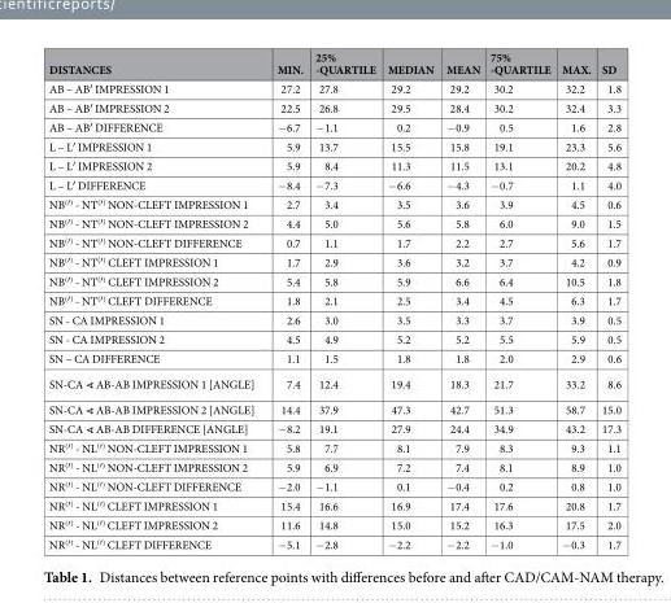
<table><thead><tr><td>DISTANCES</td><td>MIN.</td><td>25% -QUARTILE</td><td>MEDIAN</td><td>MEAN</td><td>75% -QUARTILE</td><td>MAX.</td><td>SD</td></tr></thead><tbody><tr><td>AB – AB′ IMPRESSION 1</td><td>27.2</td><td>27.8</td><td>29.2</td><td>29.2</td><td>30.2</td><td>32.2</td><td>1.8</td></tr><tr><td>AB – AB′ IMPRESSION 2</td><td>22.5</td><td>26.8</td><td>29.5</td><td>28.4</td><td>30.2</td><td>32.4</td><td>3.3</td></tr><tr><td>AB – AB′ DIFFERENCE</td><td>−6.7</td><td>−1.1</td><td>0.2</td><td>−0.9</td><td>0.5</td><td>1.6</td><td>2.8</td></tr><tr><td>L – L′ IMPRESSION 1</td><td>5.9</td><td>13.7</td><td>15.5</td><td>15.8</td><td>19.1</td><td>23.3</td><td>5.6</td></tr><tr><td>L – L′ IMPRESSION 2</td><td>5.9</td><td>8.4</td><td>11.3</td><td>11.5</td><td>13.1</td><td>20.2</td><td>4.8</td></tr><tr><td>L – L′ DIFFERENCE</td><td>−8.4</td><td>−7.3</td><td>−6.6</td><td>−4.3</td><td>−0.7</td><td>1.1</td><td>4.0</td></tr><tr><td>NB<sup>(</sup>′<sup>)</sup> - NT<sup>(</sup>′<sup>)</sup> NON-CLEFT IMPRESSION 1</td><td>2.7</td><td>3.4</td><td>3.5</td><td>3.6</td><td>3.9</td><td>4.5</td><td>0.6</td></tr><tr><td>NB<sup>(</sup>′<sup>)</sup> - NT<sup>(</sup>′<sup>)</sup> NON-CLEFT IMPRESSION 2</td><td>4.4</td><td>5.0</td><td>5.6</td><td>5.8</td><td>6.0</td><td>9.0</td><td>1.5</td></tr><tr><td>NB<sup>(</sup>′<sup>)</sup> - NT<sup>(</sup>′<sup>)</sup> NON-CLEFT DIFFERENCE</td><td>0.7</td><td>1.1</td><td>1.7</td><td>2.2</td><td>2.7</td><td>5.6</td><td>1.7</td></tr><tr><td>NB<sup>(</sup>′<sup>)</sup> - NT<sup>(</sup>′<sup>)</sup> CLEFT IMPRESSION 1</td><td>1.7</td><td>2.9</td><td>3.6</td><td>3.2</td><td>3.7</td><td>4.2</td><td>0.9</td></tr><tr><td>NB<sup>(</sup>′<sup>)</sup> - NT<sup>(</sup>′<sup>)</sup> CLEFT IMPRESSION 2</td><td>5.4</td><td>5.8</td><td>5.9</td><td>6.6</td><td>6.4</td><td>10.5</td><td>1.8</td></tr><tr><td>NB<sup>(</sup>′<sup>)</sup> - NT<sup>(</sup>′<sup>)</sup> CLEFT DIFFERENCE</td><td>1.8</td><td>2.1</td><td>2.5</td><td>3.4</td><td>4.5</td><td>6.3</td><td>1.7</td></tr><tr><td>SN - CA IMPRESSION 1</td><td>2.6</td><td>3.0</td><td>3.5</td><td>3.3</td><td>3.7</td><td>3.9</td><td>0.5</td></tr><tr><td>SN - CA IMPRESSION 2</td><td>4.5</td><td>4.9</td><td>5.2</td><td>5.2</td><td>5.5</td><td>5.9</td><td>0.5</td></tr><tr><td>SN – CA DIFFERENCE</td><td>1.1</td><td>1.5</td><td>1.8</td><td>1.8</td><td>2.0</td><td>2.9</td><td>0.6</td></tr><tr><td>SN-CA ∢ AB-AB IMPRESSION 1 [ANGLE]</td><td>7.4</td><td>12.4</td><td>19.4</td><td>18.3</td><td>21.7</td><td>33.2</td><td>8.6</td></tr><tr><td>SN-CA ∢ AB-AB IMPRESSION 2 [ANGLE]</td><td>14.4</td><td>37.9</td><td>47.3</td><td>42.7</td><td>51.3</td><td>58.7</td><td>15.0</td></tr><tr><td>SN-CA ∢ AB-AB DIFFERENCE [ANGLE]</td><td>−8.2</td><td>19.1</td><td>27.9</td><td>24.4</td><td>34.9</td><td>43.2</td><td>17.3</td></tr><tr><td>NR<sup>(</sup>′<sup>)</sup> - NL<sup>(</sup>′<sup>)</sup> NON-CLEFT IMPRESSION 1</td><td>5.8</td><td>7.7</td><td>8.1</td><td>7.9</td><td>8.3</td><td>9.3</td><td>1.1</td></tr><tr><td>NR<sup>(</sup>′<sup>)</sup> - NL<sup>(</sup>′<sup>)</sup> NON-CLEFT IMPRESSION 2</td><td>5.9</td><td>6.9</td><td>7.2</td><td>7.4</td><td>8.1</td><td>8.9</td><td>1.0</td></tr><tr><td>NR<sup>(</sup>′<sup>)</sup> - NL<sup>(</sup>′<sup>)</sup> NON-CLEFT DIFFERENCE</td><td>−2.0</td><td>−1.1</td><td>0.1</td><td>−0.4</td><td>0.2</td><td>0.8</td><td>1.0</td></tr><tr><td>NR<sup>(</sup>′<sup>)</sup> - NL<sup>(</sup>′<sup>)</sup> CLEFT IMPRESSION 1</td><td>15.4</td><td>16.6</td><td>16.9</td><td>17.4</td><td>17.6</td><td>20.8</td><td>1.7</td></tr><tr><td>NR<sup>(</sup>′<sup>)</sup> - NL<sup>(</sup>′<sup>)</sup> CLEFT IMPRESSION 2</td><td>11.6</td><td>14.8</td><td>15.0</td><td>15.2</td><td>16.3</td><td>17.5</td><td>2.0</td></tr><tr><td>NR<sup>(</sup>′<sup>)</sup> - NL<sup>(</sup>′<sup>)</sup> CLEFT DIFFERENCE</td><td>−5.1</td><td>−2.8</td><td>−2.2</td><td>−2.2</td><td>−1.0</td><td>−0.3</td><td>1.7</td></tr></tbody></table>